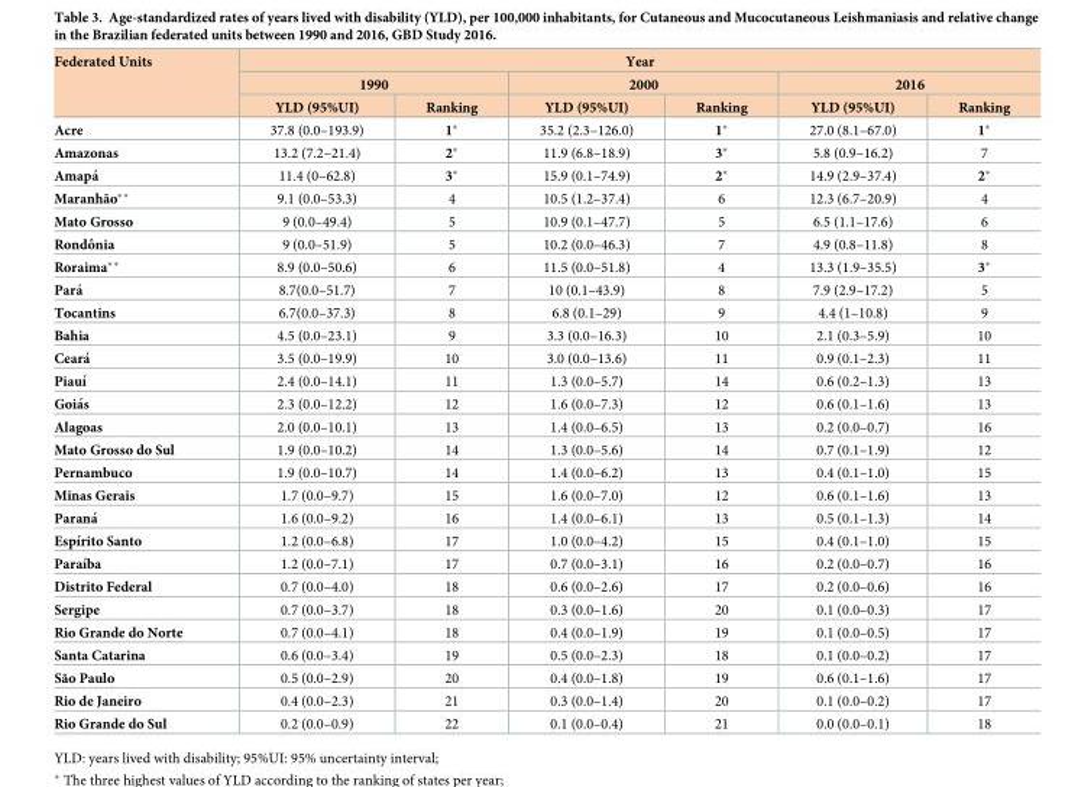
<table><thead><tr><td rowspan="3">Federated Units</td><td colspan="6">Year</td></tr><tr><td colspan="2">1990</td><td colspan="2">2000</td><td colspan="2">2016</td></tr><tr><td>YLD (95%UI)</td><td>Ranking</td><td>YLD (95%UI)</td><td>Ranking</td><td>YLD (95%UI)</td><td>Ranking</td></tr></thead><tbody><tr><td>Acre</td><td>37.8 (0.0–193.9)</td><td>1*</td><td>35.2 (2.3–126.0)</td><td>1*</td><td>27.0 (8.1–67.0)</td><td>1*</td></tr><tr><td>Amazonas</td><td>13.2 (7.2–21.4)</td><td>2*</td><td>11.9 (6.8–18.9)</td><td>3*</td><td>5.8 (0.9–16.2)</td><td>7</td></tr><tr><td>Amapa´</td><td>11.4 (0–62.8)</td><td>3*</td><td>15.9 (0.1–74.9)</td><td>2*</td><td>14.9 (2.9–37.4)</td><td>2*</td></tr><tr><td>Maranhão**</td><td>9.1 (0.0–53.3)</td><td>4</td><td>10.5 (1.2–37.4)</td><td>6</td><td>12.3 (6.7–20.9)</td><td>4</td></tr><tr><td>Mato Grosso</td><td>9 (0.0–49.4)</td><td>5</td><td>10.9 (0.1–47.7)</td><td>5</td><td>6.5 (1.1–17.6)</td><td>6</td></tr><tr><td>Rondoˆnia</td><td>9 (0.0–51.9)</td><td>5</td><td>10.2 (0.0–46.3)</td><td>7</td><td>4.9 (0.8–11.8)</td><td>8</td></tr><tr><td>Roraima**</td><td>8.9 (0.0–50.6)</td><td>6</td><td>11.5 (0.0–51.8)</td><td>4</td><td>13.3 (1.9–35.5)</td><td>3*</td></tr><tr><td>Para´</td><td>8.7(0.0–51.7)</td><td>7</td><td>10 (0.1–43.9)</td><td>8</td><td>7.9 (2.9–17.2)</td><td>5</td></tr><tr><td>Tocantins</td><td>6.7(0.0–37.3)</td><td>8</td><td>6.8 (0.1–29)</td><td>9</td><td>4.4 (1–10.8)</td><td>9</td></tr><tr><td>Bahia</td><td>4.5 (0.0–23.1)</td><td>9</td><td>3.3 (0.0–16.3)</td><td>10</td><td>2.1 (0.3–5.9)</td><td>10</td></tr><tr><td>Ceara´</td><td>3.5 (0.0–19.9)</td><td>10</td><td>3.0 (0.0–13.6)</td><td>11</td><td>0.9 (0.1–2.3)</td><td>11</td></tr><tr><td>Piauı´</td><td>2.4 (0.0–14.1)</td><td>11</td><td>1.3 (0.0–5.7)</td><td>14</td><td>0.6 (0.2–1.3)</td><td>13</td></tr><tr><td>Goia´s</td><td>2.3 (0.0–12.2)</td><td>12</td><td>1.6 (0.0–7.3)</td><td>12</td><td>0.6 (0.1–1.6)</td><td>13</td></tr><tr><td>Alagoas</td><td>2.0 (0.0–10.1)</td><td>13</td><td>1.4 (0.0–6.5)</td><td>13</td><td>0.2 (0.0–0.7)</td><td>16</td></tr><tr><td>Mato Grosso do Sul</td><td>1.9 (0.0–10.2)</td><td>14</td><td>1.3 (0.0–5.6)</td><td>14</td><td>0.7 (0.1–1.9)</td><td>12</td></tr><tr><td>Pernambuco</td><td>1.9 (0.0–10.7)</td><td>14</td><td>1.4 (0.0–6.2)</td><td>13</td><td>0.4 (0.1–1.0)</td><td>15</td></tr><tr><td>Minas Gerais</td><td>1.7 (0.0–9.7)</td><td>15</td><td>1.6 (0.0–7.0)</td><td>12</td><td>0.6 (0.1–1.6)</td><td>13</td></tr><tr><td>Parana´</td><td>1.6 (0.0–9.2)</td><td>16</td><td>1.4 (0.0–6.1)</td><td>13</td><td>0.5 (0.1–1.3)</td><td>14</td></tr><tr><td>Espı´rito Santo</td><td>1.2 (0.0–6.8)</td><td>17</td><td>1.0 (0.0–4.2)</td><td>15</td><td>0.4 (0.1–1.0)</td><td>15</td></tr><tr><td>Paraı´ba</td><td>1.2 (0.0–7.1)</td><td>17</td><td>0.7 (0.0–3.1)</td><td>16</td><td>0.2 (0.0–0.7)</td><td>16</td></tr><tr><td>Distrito Federal</td><td>0.7 (0.0–4.0)</td><td>18</td><td>0.6 (0.0–2.6)</td><td>17</td><td>0.2 (0.0–0.6)</td><td>16</td></tr><tr><td>Sergipe</td><td>0.7 (0.0–3.7)</td><td>18</td><td>0.3 (0.0–1.6)</td><td>20</td><td>0.1 (0.0–0.3)</td><td>17</td></tr><tr><td>Rio Grande do Norte</td><td>0.7 (0.0–4.1)</td><td>18</td><td>0.4 (0.0–1.9)</td><td>19</td><td>0.1 (0.0–0.5)</td><td>17</td></tr><tr><td>Santa Catarina</td><td>0.6 (0.0–3.4)</td><td>19</td><td>0.5 (0.0–2.3)</td><td>18</td><td>0.1 (0.0–0.2)</td><td>17</td></tr><tr><td>São Paulo</td><td>0.5 (0.0–2.9)</td><td>20</td><td>0.4 (0.0–1.8)</td><td>19</td><td>0.6 (0.1–1.6)</td><td>17</td></tr><tr><td>Rio de Janeiro</td><td>0.4 (0.0–2.3)</td><td>21</td><td>0.3 (0.0–1.4)</td><td>20</td><td>0.1 (0.0–0.2)</td><td>17</td></tr><tr><td>Rio Grande do Sul</td><td>0.2 (0.0–0.9)</td><td>22</td><td>0.1 (0.0–0.4)</td><td>21</td><td>0.0 (0.0–0.1)</td><td>18</td></tr></tbody></table>